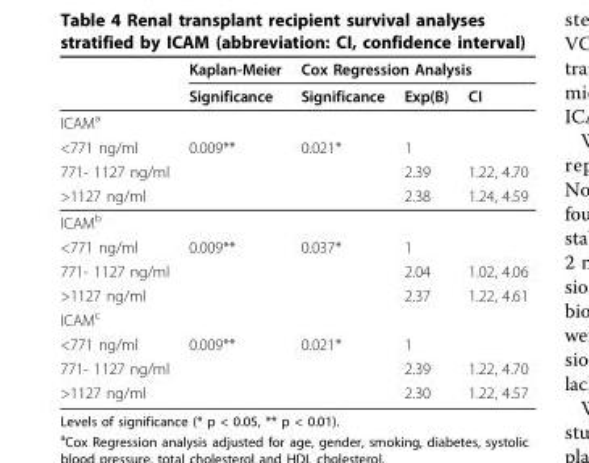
<table><thead><tr><td rowspan="2"></td><td rowspan="2">Kaplan-Meier Significance</td><td colspan="3">Cox Regression Analysis</td></tr><tr><td>Significance</td><td>Exp(B)</td><td>CI</td></tr></thead><tbody><tr><td colspan="5">ICAM<sup>a</sup></td></tr><tr><td>&lt;771 ng/ml</td><td>0.009**</td><td>0.021*</td><td>1</td><td></td></tr><tr><td>771- 1127 ng/ml</td><td></td><td></td><td>2.39</td><td>1.22, 4.70</td></tr><tr><td>&gt;1127 ng/ml</td><td></td><td></td><td>2.38</td><td>1.24, 4.59</td></tr><tr><td colspan="5">ICAM<sup>b</sup></td></tr><tr><td>&lt;771 ng/ml</td><td>0.009**</td><td>0.037*</td><td>1</td><td></td></tr><tr><td>771- 1127 ng/ml</td><td></td><td></td><td>2.04</td><td>1.02, 4.06</td></tr><tr><td>&gt;1127 ng/ml</td><td></td><td></td><td>2.37</td><td>1.22, 4.61</td></tr><tr><td colspan="5">ICAM<sup>c</sup></td></tr><tr><td>&lt;771 ng/ml</td><td>0.009**</td><td>0.021*</td><td>1</td><td></td></tr><tr><td>771- 1127 ng/ml</td><td></td><td></td><td>2.39</td><td>1.22, 4.70</td></tr><tr><td>&gt;1127 ng/ml</td><td></td><td></td><td>2.30</td><td>1.22, 4.57</td></tr></tbody></table>